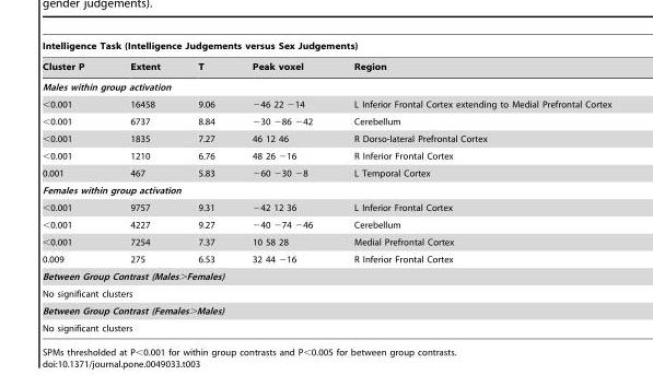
<table><thead><tr><td colspan="5">Intelligence Task (Intelligence Judgements versus Sex Judgements)</td></tr><tr><td>Cluster P</td><td>Extent</td><td>T</td><td>Peak voxel</td><td>Region</td></tr></thead><tbody><tr><td colspan="5">Males within group activation</td></tr><tr><td>&lt;0.001</td><td>16458</td><td>9.06</td><td>−46 22 −14</td><td>L Inferior Frontal Cortex extending to Medial Prefrontal Cortex</td></tr><tr><td>&lt;0.001</td><td>6737</td><td>8.84</td><td>−30 −86 −42</td><td>Cerebellum</td></tr><tr><td>&lt;0.001</td><td>1835</td><td>7.27</td><td>46 12 46</td><td>R Dorso-lateral Prefrontal Cortex</td></tr><tr><td>&lt;0.001</td><td>1210</td><td>6.76</td><td>48 26 −16</td><td>R Inferior Frontal Cortex</td></tr><tr><td>0.001</td><td>467</td><td>5.83</td><td>−60 −30 −8</td><td>L Temporal Cortex</td></tr><tr><td colspan="5">Females within group activation</td></tr><tr><td>&lt;0.001</td><td>9757</td><td>9.31</td><td>−42 12 36</td><td>L Inferior Frontal Cortex</td></tr><tr><td>&lt;0.001</td><td>4227</td><td>9.27</td><td>−40 −74 −46</td><td>Cerebellum</td></tr><tr><td>&lt;0.001</td><td>7254</td><td>7.37</td><td>10 58 28</td><td>Medial Prefrontal Cortex</td></tr><tr><td>0.009</td><td>275</td><td>6.53</td><td>32 44 −16</td><td>R Inferior Frontal Cortex</td></tr><tr><td colspan="5">Between Group Contrast (Males&gt;Females)</td></tr><tr><td colspan="5">No significant clusters</td></tr><tr><td colspan="5">Between Group Contrast (Females&gt;Males)</td></tr><tr><td colspan="5">No significant clusters</td></tr></tbody></table>